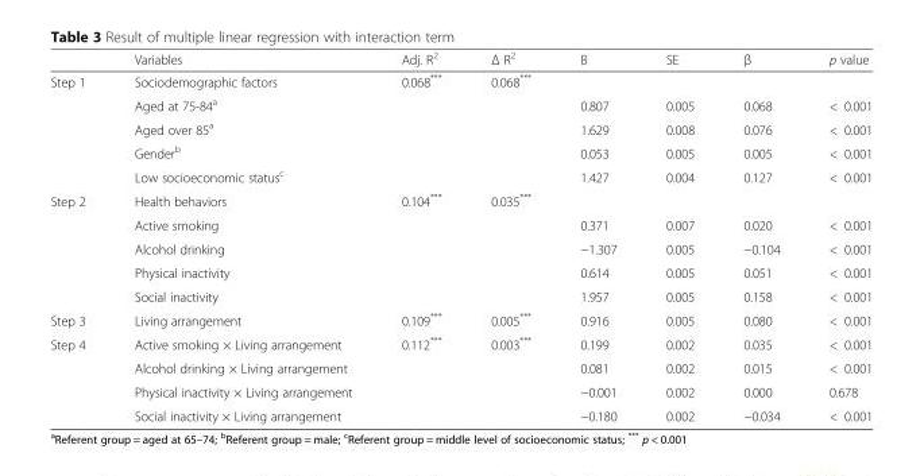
<table><thead><tr><td></td><td>Variables</td><td>Adj. R<sup>2</sup></td><td>Δ R<sup>2</sup></td><td>B</td><td>SE</td><td>β</td><td>p value</td></tr></thead><tbody><tr><td rowspan="5">Step 1</td><td>Sociodemographic factors</td><td>0.068***</td><td>0.068***</td><td></td><td></td><td></td><td></td></tr><tr><td>Aged at 75-84<sup>a</sup></td><td></td><td></td><td>0.807</td><td>0.005</td><td>0.068</td><td>&lt; 0.001</td></tr><tr><td>Aged over 85<sup>a</sup></td><td></td><td></td><td>1.629</td><td>0.008</td><td>0.076</td><td>&lt; 0.001</td></tr><tr><td>Gender<sup>b</sup></td><td></td><td></td><td>0.053</td><td>0.005</td><td>0.005</td><td>&lt; 0.001</td></tr><tr><td>Low socioeconomic status<sup>c</sup></td><td></td><td></td><td>1.427</td><td>0.004</td><td>0.127</td><td>&lt; 0.001</td></tr><tr><td rowspan="5">Step 2</td><td>Health behaviors</td><td>0.104***</td><td>0.035***</td><td></td><td></td><td></td><td></td></tr><tr><td>Active smoking</td><td></td><td></td><td>0.371</td><td>0.007</td><td>0.020</td><td>&lt; 0.001</td></tr><tr><td>Alcohol drinking</td><td></td><td></td><td>−1.307</td><td>0.005</td><td>−0.104</td><td>&lt; 0.001</td></tr><tr><td>Physical inactivity</td><td></td><td></td><td>0.614</td><td>0.005</td><td>0.051</td><td>&lt; 0.001</td></tr><tr><td>Social inactivity</td><td></td><td></td><td>1.957</td><td>0.005</td><td>0.158</td><td>&lt; 0.001</td></tr><tr><td>Step 3</td><td>Living arrangement</td><td>0.109***</td><td>0.005***</td><td>0.916</td><td>0.005</td><td>0.080</td><td>&lt; 0.001</td></tr><tr><td rowspan="4">Step 4</td><td>Active smoking × Living arrangement</td><td>0.112***</td><td>0.003***</td><td>0.199</td><td>0.002</td><td>0.035</td><td>&lt; 0.001</td></tr><tr><td>Alcohol drinking × Living arrangement</td><td></td><td></td><td>0.081</td><td>0.002</td><td>0.015</td><td>&lt; 0.001</td></tr><tr><td>Physical inactivity × Living arrangement</td><td></td><td></td><td>−0.001</td><td>0.002</td><td>0.000</td><td>0.678</td></tr><tr><td>Social inactivity × Living arrangement</td><td></td><td></td><td>−0.180</td><td>0.002</td><td>−0.034</td><td>&lt; 0.001</td></tr></tbody></table>